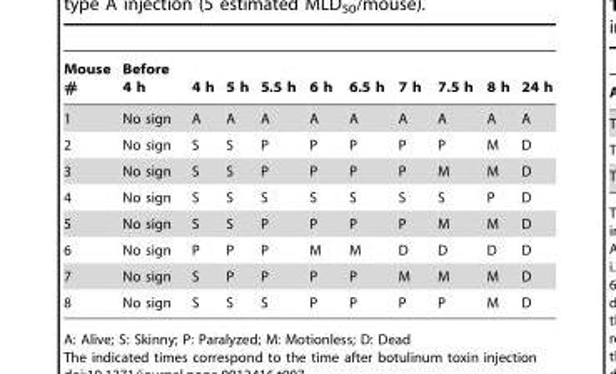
<table><thead><tr><td>Mouse #</td><td>Before 4 h</td><td>4 h</td><td>5 h</td><td>5.5 h</td><td>6 h</td><td>6.5 h</td><td>7 h</td><td>7.5 h</td><td>8 h</td><td>24 h</td></tr></thead><tbody><tr><td>1</td><td>No sign</td><td>A</td><td>A</td><td>A</td><td>A</td><td>A</td><td>A</td><td>A</td><td>A</td><td>A</td></tr><tr><td>2</td><td>No sign</td><td>S</td><td>S</td><td>P</td><td>P</td><td>P</td><td>P</td><td>P</td><td>M</td><td>D</td></tr><tr><td>3</td><td>No sign</td><td>S</td><td>S</td><td>P</td><td>P</td><td>P</td><td>P</td><td>M</td><td>M</td><td>D</td></tr><tr><td>4</td><td>No sign</td><td>S</td><td>S</td><td>S</td><td>S</td><td>S</td><td>S</td><td>S</td><td>P</td><td>D</td></tr><tr><td>5</td><td>No sign</td><td>S</td><td>S</td><td>P</td><td>P</td><td>P</td><td>P</td><td>M</td><td>M</td><td>D</td></tr><tr><td>6</td><td>No sign</td><td>P</td><td>P</td><td>P</td><td>M</td><td>M</td><td>D</td><td>D</td><td>D</td><td>D</td></tr><tr><td>7</td><td>No sign</td><td>S</td><td>P</td><td>P</td><td>P</td><td>P</td><td>M</td><td>M</td><td>M</td><td>D</td></tr><tr><td>8</td><td>No sign</td><td>S</td><td>S</td><td>S</td><td>P</td><td>P</td><td>P</td><td>P</td><td>M</td><td>D</td></tr></tbody></table>